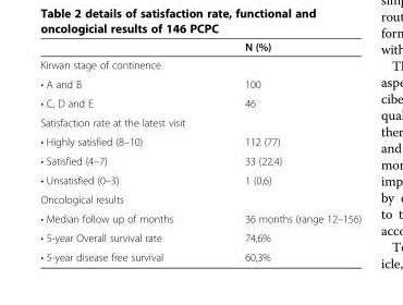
<table><thead><tr><td></td><td>N (%)</td></tr></thead><tbody><tr><td colspan="2">Kirwan stage of continence</td></tr><tr><td>• A and B</td><td>100</td></tr><tr><td>• C, D and E</td><td>46</td></tr><tr><td colspan="2">Satisfaction rate at the latest visit</td></tr><tr><td>• Highly satisfied (8–10)</td><td>112 (77)</td></tr><tr><td>• Satisfied (4–7)</td><td>33 (22,4)</td></tr><tr><td>• Unsatisfied (0–3)</td><td>1 (0,6)</td></tr><tr><td colspan="2">Oncological results</td></tr><tr><td>• Median follow up of months</td><td>36 months (range 12–156)</td></tr><tr><td>• 5-year Overall survival rate</td><td>74,6%</td></tr><tr><td>• 5-year disease free survival</td><td>60,3%</td></tr></tbody></table>